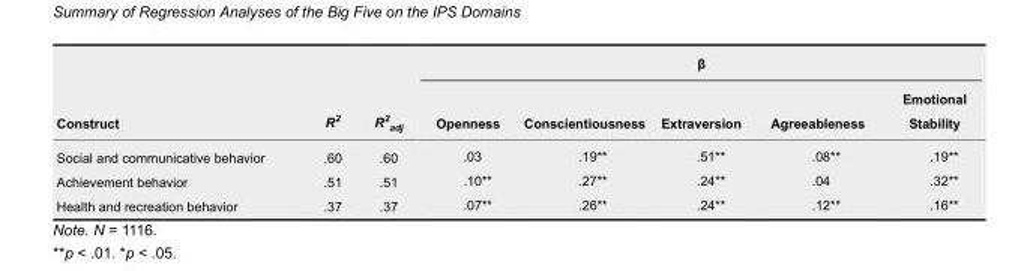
<table><thead><tr><td rowspan="2">Construct</td><td rowspan="2">R<sup>2</sup></td><td rowspan="2">R<sup>2</sup> <sub>adj</sub></td><td colspan="5">β</td></tr><tr><td>Openness</td><td>Conscientiousness</td><td>Extraversion</td><td>Agreeableness</td><td>Emotional Stability</td></tr></thead><tbody><tr><td>Social and communicative behavior</td><td>.60</td><td>.60</td><td>.03</td><td>.19**</td><td>.51**</td><td>.08**</td><td>.19**</td></tr><tr><td>Achievement behavior</td><td>.51</td><td>.51</td><td>.10**</td><td>.27**</td><td>.24**</td><td>.04</td><td>.32**</td></tr><tr><td>Health and recreation behavior</td><td>.37</td><td>.37</td><td>.07**</td><td>.26**</td><td>.24**</td><td>.12**</td><td>.16**</td></tr></tbody></table>